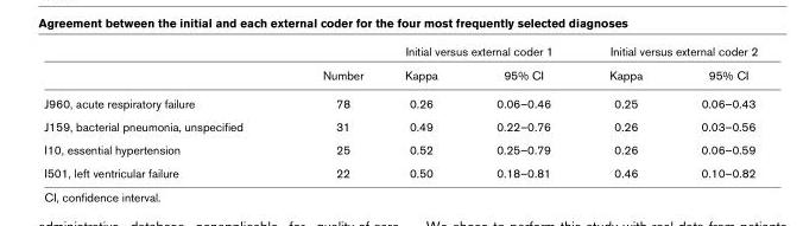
<table><thead><tr><td rowspan="2"></td><td rowspan="2">Number</td><td colspan="2">Initial versus external coder 1</td><td colspan="2">Initial versus external coder 2</td></tr><tr><td>Kappa</td><td>95% CI</td><td>Kappa</td><td>95% CI</td></tr></thead><tbody><tr><td>J960, acute respiratory failure</td><td>78</td><td>0.26</td><td>0.06–0.46</td><td>0.25</td><td>0.06–0.43</td></tr><tr><td>J159, bacterial pneumonia, unspecified</td><td>31</td><td>0.49</td><td>0.22–0.76</td><td>0.26</td><td>0.03–0.56</td></tr><tr><td>I10, essential hypertension</td><td>25</td><td>0.52</td><td>0.25–0.79</td><td>0.26</td><td>0.06–0.59</td></tr><tr><td>I501, left ventricular failure</td><td>22</td><td>0.50</td><td>0.18–0.81</td><td>0.46</td><td>0.10–0.82</td></tr></tbody></table>